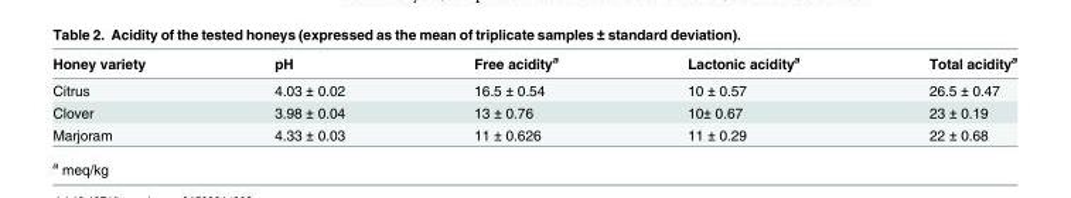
<table><thead><tr><td>Honey variety</td><td>pH</td><td>Free acidity<sup>a</sup></td><td>Lactonic acidity<sup>a</sup></td><td>Total acidity<sup>a</sup></td></tr></thead><tbody><tr><td>Citrus</td><td>4.03 ± 0.02</td><td>16.5 ± 0.54</td><td>10 ± 0.57</td><td>26.5 ± 0.47</td></tr><tr><td>Clover</td><td>3.98 ± 0.04</td><td>13 ± 0.76</td><td>10± 0.67</td><td>23 ± 0.19</td></tr><tr><td>Marjoram</td><td>4.33 ± 0.03</td><td>11 ± 0.626</td><td>11 ± 0.29</td><td>22 ± 0.68</td></tr></tbody></table>